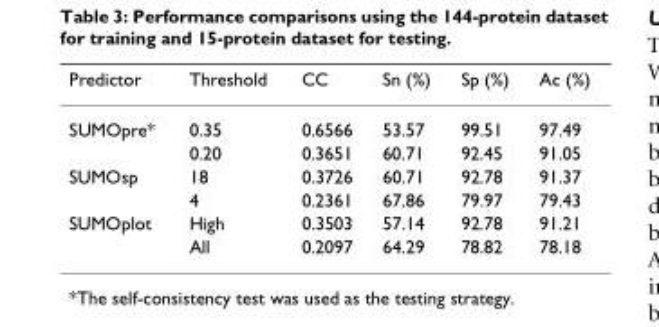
<table><thead><tr><td>Predictor</td><td>Threshold</td><td>CC</td><td>Sn (%)</td><td>Sp (%)</td><td>Ac (%)</td></tr></thead><tbody><tr><td rowspan="2">SUMOpre*</td><td>0.35</td><td>0.6566</td><td>53.57</td><td>99.51</td><td>97.49</td></tr><tr><td>0.20</td><td>0.3651</td><td>60.71</td><td>92.45</td><td>91.05</td></tr><tr><td rowspan="2">SUMOsp</td><td>18</td><td>0.3726</td><td>60.71</td><td>92.78</td><td>91.37</td></tr><tr><td>4</td><td>0.2361</td><td>67.86</td><td>79.97</td><td>79.43</td></tr><tr><td rowspan="2">SUMOplot</td><td>High</td><td>0.3503</td><td>57.14</td><td>92.78</td><td>91.21</td></tr><tr><td>All</td><td>0.2097</td><td>64.29</td><td>78.82</td><td>78.18</td></tr></tbody></table>